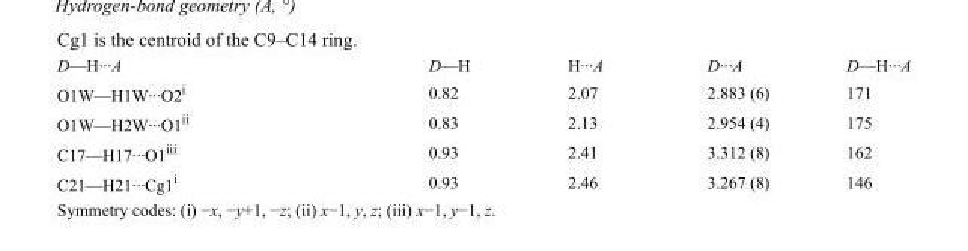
<table><tbody><tr><td>D—H···A</td><td>D—H</td><td>H···A</td><td>D···A</td><td>D—H···A</td></tr><tr><td>O1W—H1W···O2<sup>i</sup></td><td>0.82</td><td>2.07</td><td>2.883 (6)</td><td>171</td></tr><tr><td>O1W—H2W···O1<sup>ii</sup></td><td>0.83</td><td>2.13</td><td>2.954 (4)</td><td>175</td></tr><tr><td>C17—H17···O1<sup>iii</sup></td><td>0.93</td><td>2.41</td><td>3.312 (8)</td><td>162</td></tr><tr><td>C21—H21···Cg1<sup>i</sup></td><td>0.93</td><td>2.46</td><td>3.267 (8)</td><td>146</td></tr></tbody></table>